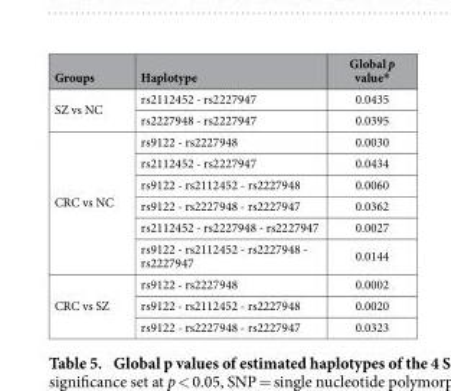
<table><thead><tr><td>Groups</td><td>Haplotype</td><td>Global p value*</td></tr></thead><tbody><tr><td rowspan="2">SZ vs NC</td><td>rs2112452 - rs2227947</td><td>0.0435</td></tr><tr><td>rs2227948 - rs2227947</td><td>0.0395</td></tr><tr><td rowspan="6">CRC vs NC</td><td>rs9122 - rs2227948</td><td>0.0030</td></tr><tr><td>rs2112452 - rs2227947</td><td>0.0434</td></tr><tr><td>rs9122 - rs2112452 - rs2227948</td><td>0.0060</td></tr><tr><td>rs9122 - rs2227948 - rs2227947</td><td>0.0362</td></tr><tr><td>rs2112452 - rs2227948 - rs2227947</td><td>0.0027</td></tr><tr><td>rs9122 - rs2112452 - rs2227948 - rs2227947</td><td>0.0144</td></tr><tr><td rowspan="3">CRC vs SZ</td><td>rs9122 - rs2227948</td><td>0.0002</td></tr><tr><td>rs9122 - rs2112452 - rs2227948</td><td>0.0020</td></tr><tr><td>rs9122 - rs2227948 - rs2227947</td><td>0.0323</td></tr></tbody></table>